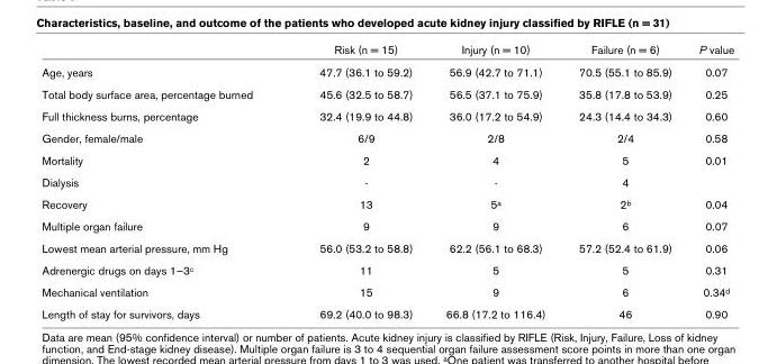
<table><thead><tr><td></td><td>Risk (n = 15)</td><td>Injury (n = 10)</td><td>Failure (n = 6)</td><td>P value</td></tr></thead><tbody><tr><td>Age, years</td><td>47.7 (36.1 to 59.2)</td><td>56.9 (42.7 to 71.1)</td><td>70.5 (55.1 to 85.9)</td><td>0.07</td></tr><tr><td>Total body surface area, percentage burned</td><td>45.6 (32.5 to 58.7)</td><td>56.5 (37.1 to 75.9)</td><td>35.8 (17.8 to 53.9)</td><td>0.25</td></tr><tr><td>Full thickness burns, percentage</td><td>32.4 (19.9 to 44.8)</td><td>36.0 (17.2 to 54.9)</td><td>24.3 (14.4 to 34.3)</td><td>0.60</td></tr><tr><td>Gender, female/male</td><td>6/9</td><td>2/8</td><td>2/4</td><td>0.58</td></tr><tr><td>Mortality</td><td>2</td><td>4</td><td>5</td><td>0.01</td></tr><tr><td>Dialysis</td><td>-</td><td>-</td><td>4</td><td></td></tr><tr><td>Recovery</td><td>13</td><td>5<sup>a</sup></td><td>2<sup>b</sup></td><td>0.04</td></tr><tr><td>Multiple organ failure</td><td>9</td><td>9</td><td>6</td><td>0.07</td></tr><tr><td>Lowest mean arterial pressure, mm Hg</td><td>56.0 (53.2 to 58.8)</td><td>62.2 (56.1 to 68.3)</td><td>57.2 (52.4 to 61.9)</td><td>0.06</td></tr><tr><td>Adrenergic drugs on days 1–3<sup>c</sup></td><td>11</td><td>5</td><td>5</td><td>0.31</td></tr><tr><td>Mechanical ventilation</td><td>15</td><td>9</td><td>6</td><td>0.34<sup>d</sup></td></tr><tr><td>Length of stay for survivors, days</td><td>69.2 (40.0 to 98.3)</td><td>66.8 (17.2 to 116.4)</td><td>46</td><td>0.90</td></tr></tbody></table>